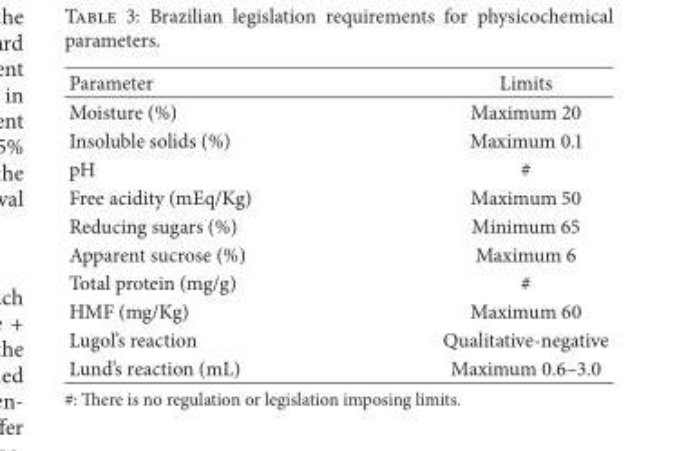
<table><thead><tr><td>Parameter</td><td>Limits</td></tr></thead><tbody><tr><td>Moisture (%)</td><td>Maximum 20</td></tr><tr><td>Insoluble solids (%)</td><td>Maximum 0.1</td></tr><tr><td>pH</td><td>#</td></tr><tr><td>Free acidity (mEq/Kg)</td><td>Maximum 50</td></tr><tr><td>Reducing sugars (%)</td><td>Minimum 65</td></tr><tr><td>Apparent sucrose (%)</td><td>Maximum 6</td></tr><tr><td>Total protein (mg/g)</td><td>#</td></tr><tr><td>HMF (mg/Kg)</td><td>Maximum 60</td></tr><tr><td>Lugol’s reaction</td><td>Qualitative-negative</td></tr><tr><td>Lund’s reaction (mL)</td><td>Maximum 0.6–3.0</td></tr></tbody></table>